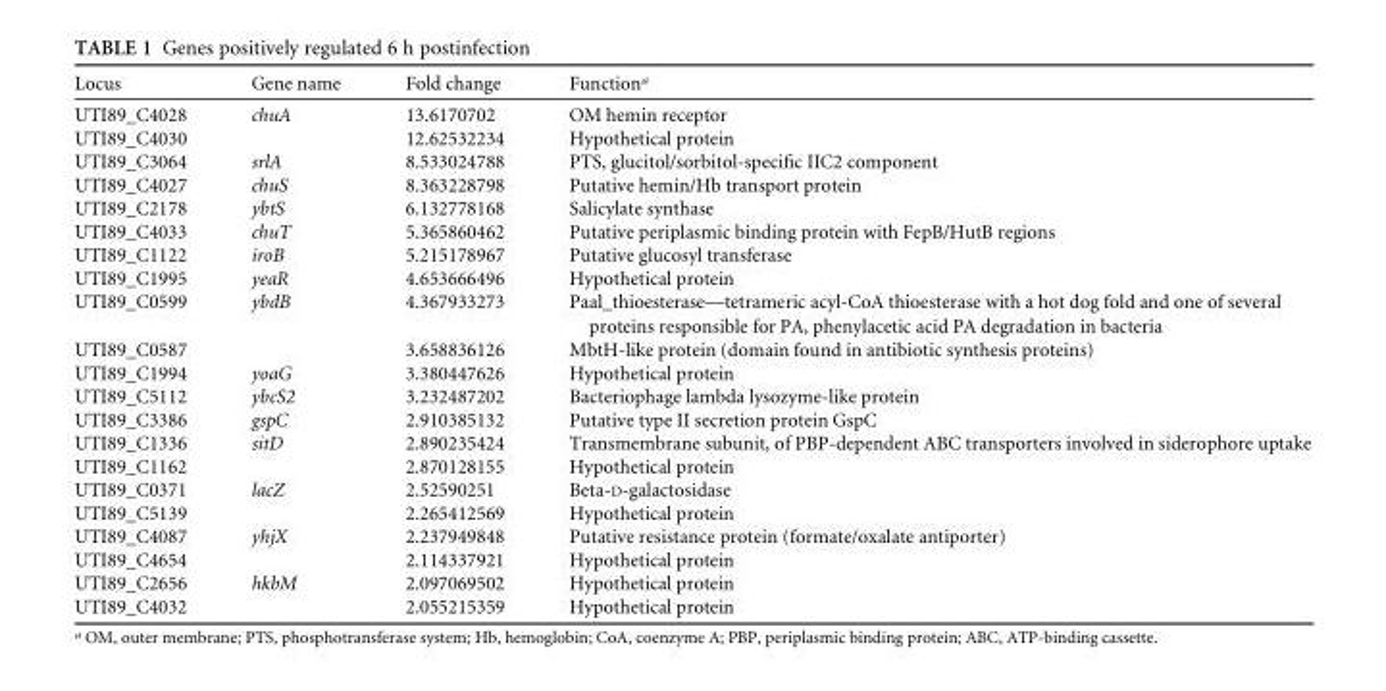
<table><thead><tr><td>Locus</td><td>Gene name</td><td>Fold change</td><td>Function<sup>a</sup></td></tr></thead><tbody><tr><td>UTI89_C4028</td><td>chuA</td><td>13.6170702</td><td>OM hemin receptor</td></tr><tr><td>UTI89_C4030</td><td></td><td>12.62532234</td><td>Hypothetical protein</td></tr><tr><td>UTI89_C3064</td><td>srlA</td><td>8.533024788</td><td>PTS, glucitol/sorbitol-specific IIC2 component</td></tr><tr><td>UTI89_C4027</td><td>chuS</td><td>8.363228798</td><td>Putative hemin/Hb transport protein</td></tr><tr><td>UTI89_C2178</td><td>ybtS</td><td>6.132778168</td><td>Salicylate synthase</td></tr><tr><td>UTI89_C4033</td><td>chuT</td><td>5.365860462</td><td>Putative periplasmic binding protein with FepB/HutB regions</td></tr><tr><td>UTI89_C1122</td><td>iroB</td><td>5.215178967</td><td>Putative glucosyl transferase</td></tr><tr><td>UTI89_C1995</td><td>yeaR</td><td>4.653666496</td><td>Hypothetical protein</td></tr><tr><td>UTI89_C0599</td><td>ybdB</td><td>4.367933273</td><td>Paal_thioesterase—tetrameric acyl-CoA thioesterase with a hot dog fold and one of several proteins responsible for PA, phenylacetic acid PA degradation in bacteria</td></tr><tr><td>UTI89_C0587</td><td></td><td>3.658836126</td><td>MbtH-like protein (domain found in antibiotic synthesis proteins)</td></tr><tr><td>UTI89_C1994</td><td>yoaG</td><td>3.380447626</td><td>Hypothetical protein</td></tr><tr><td>UTI89_C5112</td><td>ybcS2</td><td>3.232487202</td><td>Bacteriophage lambda lysozyme-like protein</td></tr><tr><td>UTI89_C3386</td><td>gspC</td><td>2.910385132</td><td>Putative type II secretion protein GspC</td></tr><tr><td>UTI89_C1336</td><td>sitD</td><td>2.890235424</td><td>Transmembrane subunit, of PBP-dependent ABC transporters involved in siderophore uptake</td></tr><tr><td>UTI89_C1162</td><td></td><td>2.870128155</td><td>Hypothetical protein</td></tr><tr><td>UTI89_C0371</td><td>lacZ</td><td>2.52590251</td><td>Beta-D-galactosidase</td></tr><tr><td>UTI89_C5139</td><td></td><td>2.265412569</td><td>Hypothetical protein</td></tr><tr><td>UTI89_C4087</td><td>yhjX</td><td>2.237949848</td><td>Putative resistance protein (formate/oxalate antiporter)</td></tr><tr><td>UTI89_C4654</td><td></td><td>2.114337921</td><td>Hypothetical protein</td></tr><tr><td>UTI89_C2656</td><td>hkbM</td><td>2.097069502</td><td>Hypothetical protein</td></tr><tr><td>UTI89_C4032</td><td></td><td>2.055215359</td><td>Hypothetical protein</td></tr></tbody></table>